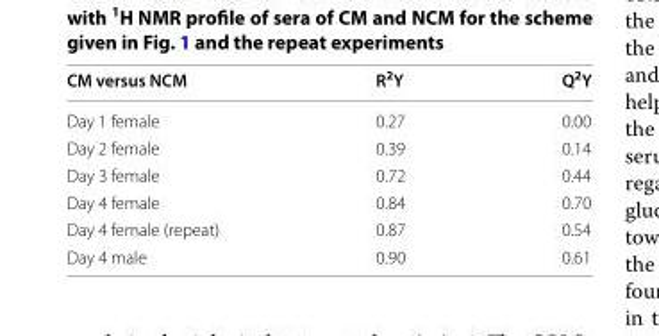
<table><thead><tr><td>CM versus NCM</td><td>R<sup>2</sup>Y</td><td>Q<sup>2</sup>Y</td></tr></thead><tbody><tr><td>Day 1 female</td><td>0.27</td><td>0.00</td></tr><tr><td>Day 2 female</td><td>0.39</td><td>0.14</td></tr><tr><td>Day 3 female</td><td>0.72</td><td>0.44</td></tr><tr><td>Day 4 female</td><td>0.84</td><td>0.70</td></tr><tr><td>Day 4 female (repeat)</td><td>0.87</td><td>0.54</td></tr><tr><td>Day 4 male</td><td>0.90</td><td>0.61</td></tr></tbody></table>